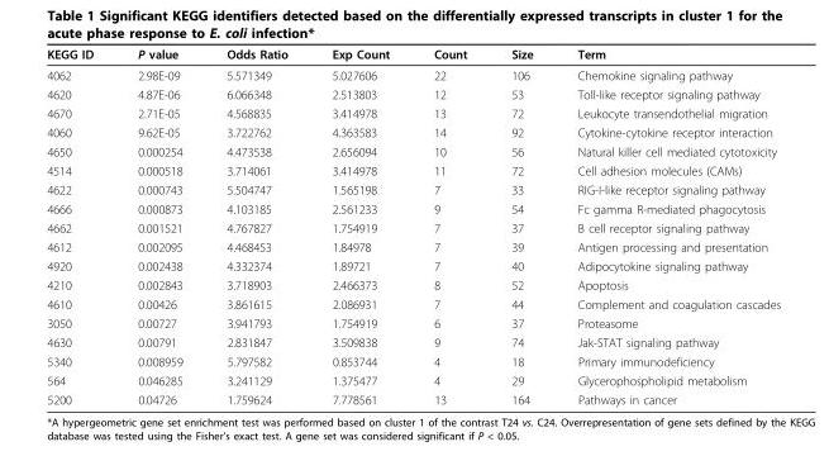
<table><thead><tr><td>KEGG ID</td><td>P value</td><td>Odds Ratio</td><td>Exp Count</td><td>Count</td><td>Size</td><td>Term</td></tr></thead><tbody><tr><td>4062</td><td>2.98E-09</td><td>5.571349</td><td>5.027606</td><td>22</td><td>106</td><td>Chemokine signaling pathway</td></tr><tr><td>4620</td><td>4.87E-06</td><td>6.066348</td><td>2.513803</td><td>12</td><td>53</td><td>Toll-like receptor signaling pathway</td></tr><tr><td>4670</td><td>2.71E-05</td><td>4.568835</td><td>3.414978</td><td>13</td><td>72</td><td>Leukocyte transendothelial migration</td></tr><tr><td>4060</td><td>9.62E-05</td><td>3.722762</td><td>4.363583</td><td>14</td><td>92</td><td>Cytokine-cytokine receptor interaction</td></tr><tr><td>4650</td><td>0.000254</td><td>4.473538</td><td>2.656094</td><td>10</td><td>56</td><td>Natural killer cell mediated cytotoxicity</td></tr><tr><td>4514</td><td>0.000518</td><td>3.714061</td><td>3.414978</td><td>11</td><td>72</td><td>Cell adhesion molecules (CAMs)</td></tr><tr><td>4622</td><td>0.000743</td><td>5.504747</td><td>1.565198</td><td>7</td><td>33</td><td>RIG-I-like receptor signaling pathway</td></tr><tr><td>4666</td><td>0.000873</td><td>4.103185</td><td>2.561233</td><td>9</td><td>54</td><td>Fc gamma R-mediated phagocytosis</td></tr><tr><td>4662</td><td>0.001521</td><td>4.767827</td><td>1.754919</td><td>7</td><td>37</td><td>B cell receptor signaling pathway</td></tr><tr><td>4612</td><td>0.002095</td><td>4.468453</td><td>1.84978</td><td>7</td><td>39</td><td>Antigen processing and presentation</td></tr><tr><td>4920</td><td>0.002438</td><td>4.332374</td><td>1.89721</td><td>7</td><td>40</td><td>Adipocytokine signaling pathway</td></tr><tr><td>4210</td><td>0.002843</td><td>3.718903</td><td>2.466373</td><td>8</td><td>52</td><td>Apoptosis</td></tr><tr><td>4610</td><td>0.00426</td><td>3.861615</td><td>2.086931</td><td>7</td><td>44</td><td>Complement and coagulation cascades</td></tr><tr><td>3050</td><td>0.00727</td><td>3.941793</td><td>1.754919</td><td>6</td><td>37</td><td>Proteasome</td></tr><tr><td>4630</td><td>0.00791</td><td>2.831847</td><td>3.509838</td><td>9</td><td>74</td><td>Jak-STAT signaling pathway</td></tr><tr><td>5340</td><td>0.008959</td><td>5.797582</td><td>0.853744</td><td>4</td><td>18</td><td>Primary immunodeficiency</td></tr><tr><td>564</td><td>0.046285</td><td>3.241129</td><td>1.375477</td><td>4</td><td>29</td><td>Glycerophospholipid metabolism</td></tr><tr><td>5200</td><td>0.04726</td><td>1.759624</td><td>7.778561</td><td>13</td><td>164</td><td>Pathways in cancer</td></tr></tbody></table>